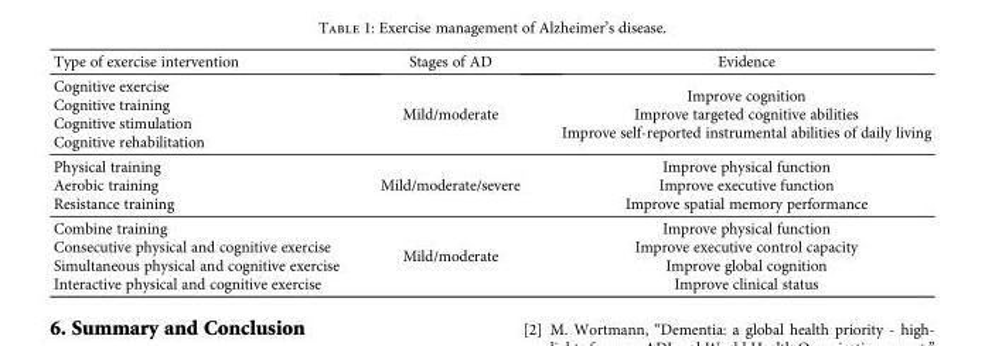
<table><thead><tr><td>Type of exercise intervention</td><td>Stages of AD</td><td>Evidence</td></tr></thead><tbody><tr><td>Cognitive exercise Cognitive training Cognitive stimulation Cognitive rehabilitation</td><td>Mild/moderate</td><td>Improve cognition Improve targeted cognitive abilities Improve self-reported instrumental abilities of daily living</td></tr><tr><td>Physical training Aerobic training Resistance training</td><td>Mild/moderate/severe</td><td>Improve physical function Improve executive function Improve spatial memory performance</td></tr><tr><td>Combine training Consecutive physical and cognitive exercise Simultaneous physical and cognitive exercise Interactive physical and cognitive exercise</td><td>Mild/moderate</td><td>Improve physical function Improve executive control capacity Improve global cognition Improve clinical status</td></tr></tbody></table>